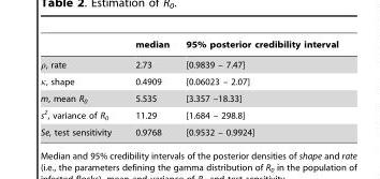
<table><thead><tr><td></td><td>median</td><td>95% posterior credibility interval</td></tr></thead><tbody><tr><td>ρ, rate</td><td>2.73</td><td>[0.9839 – 7.47]</td></tr><tr><td>κ, shape</td><td>0.4909</td><td>[0.06023 – 2.07]</td></tr><tr><td>m, mean R<sub>0</sub></td><td>5.535</td><td>[3.357 –18.33]</td></tr><tr><td>s<sup>2</sup>, variance of R<sub>0</sub></td><td>11.29</td><td>[1.684 – 298.8]</td></tr><tr><td>Se, test sensitivity</td><td>0.9768</td><td>[0.9532 – 0.9924]</td></tr></tbody></table>